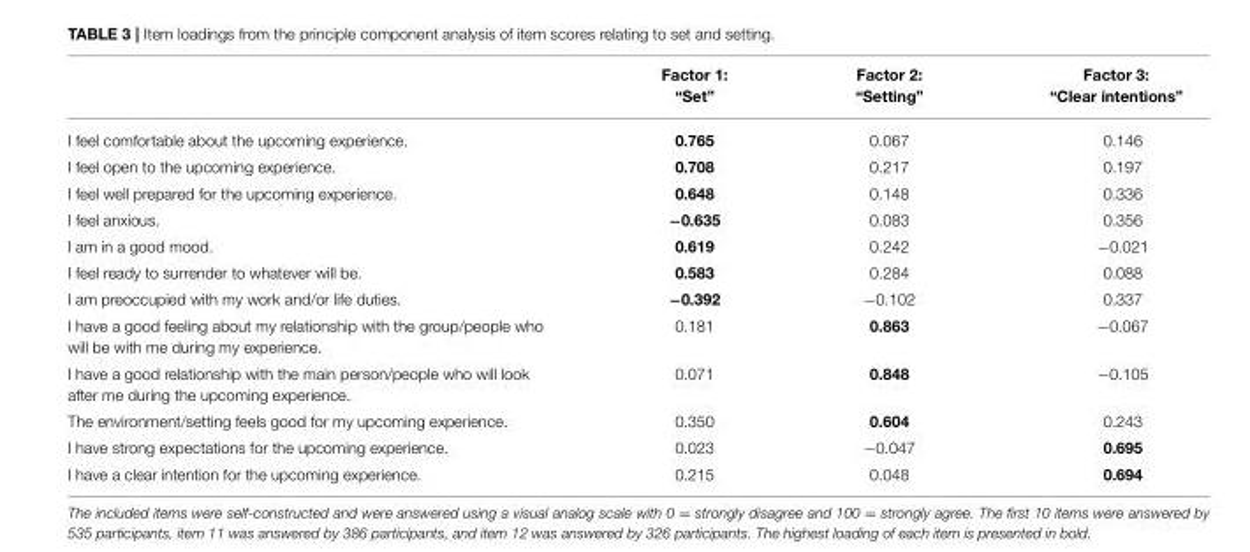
<table><thead><tr><td></td><td>Factor 1: “Set”</td><td>Factor 2: “Setting”</td><td>Factor 3: “Clear intentions”</td></tr></thead><tbody><tr><td>I feel comfortable about the upcoming experience.</td><td>0.765</td><td>0.067</td><td>0.146</td></tr><tr><td>I feel open to the upcoming experience.</td><td>0.708</td><td>0.217</td><td>0.197</td></tr><tr><td>I feel well prepared for the upcoming experience.</td><td>0.648</td><td>0.148</td><td>0.336</td></tr><tr><td>I feel anxious.</td><td>−0.635</td><td>0.083</td><td>0.356</td></tr><tr><td>I am in a good mood.</td><td>0.619</td><td>0.242</td><td>−0.021</td></tr><tr><td>I feel ready to surrender to whatever will be.</td><td>0.583</td><td>0.284</td><td>0.088</td></tr><tr><td>I am preoccupied with my work and/or life duties.</td><td>−0.392</td><td>−0.102</td><td>0.337</td></tr><tr><td>I have a good feeling about my relationship with the group/people who will be with me during my experience.</td><td>0.181</td><td>0.863</td><td>−0.067</td></tr><tr><td>I have a good relationship with the main person/people who will look after me during the upcoming experience.</td><td>0.071</td><td>0.848</td><td>−0.105</td></tr><tr><td>The environment/setting feels good for my upcoming experience.</td><td>0.350</td><td>0.604</td><td>0.243</td></tr><tr><td>I have strong expectations for the upcoming experience.</td><td>0.023</td><td>−0.047</td><td>0.695</td></tr><tr><td>I have a clear intention for the upcoming experience.</td><td>0.215</td><td>0.048</td><td>0.694</td></tr></tbody></table>